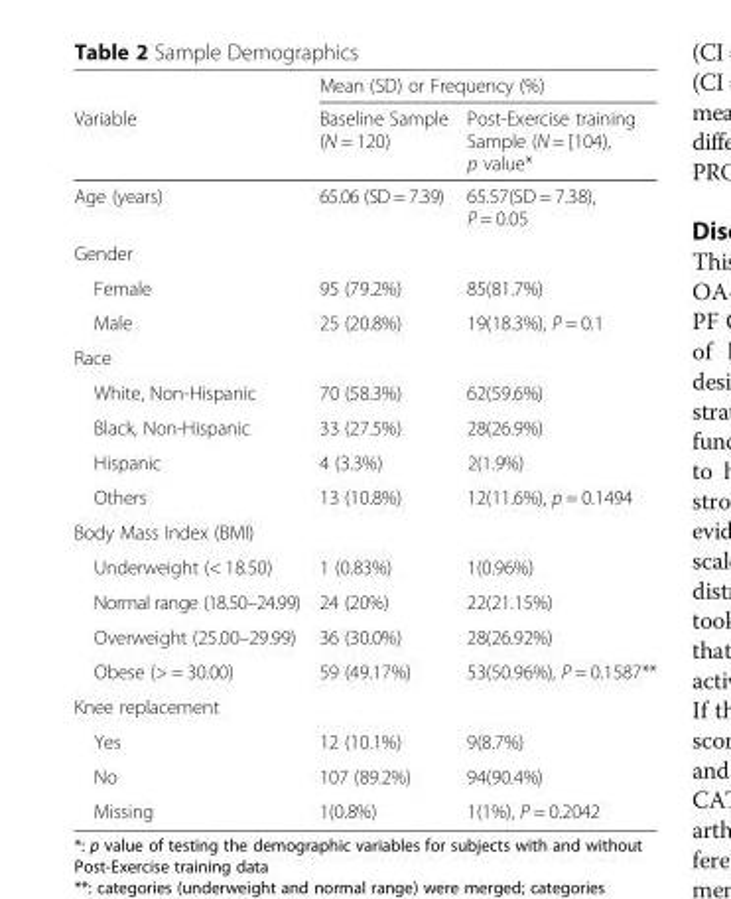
<table><thead><tr><td rowspan="2">Variable</td><td colspan="2">Mean (SD) or Frequency (%)</td></tr><tr><td>Baseline Sample (N = 120)</td><td>Post-Exercise training Sample (N = [104), p value*</td></tr></thead><tbody><tr><td>Age (years)</td><td>65.06 (SD = 7.39)</td><td>65.57(SD = 7.38), P = 0.05</td></tr><tr><td colspan="3">Gender</td></tr><tr><td>Female</td><td>95 (79.2%)</td><td>85(81.7%)</td></tr><tr><td>Male</td><td>25 (20.8%)</td><td>19(18.3%), P = 0.1</td></tr><tr><td colspan="3">Race</td></tr><tr><td>White, Non-Hispanic</td><td>70 (58.3%)</td><td>62(59.6%)</td></tr><tr><td>Black, Non-Hispanic</td><td>33 (27.5%)</td><td>28(26.9%)</td></tr><tr><td>Hispanic</td><td>4 (3.3%)</td><td>2(1.9%)</td></tr><tr><td>Others</td><td>13 (10.8%)</td><td>12(11.6%), p = 0.1494</td></tr><tr><td colspan="3">Body Mass Index (BMI)</td></tr><tr><td>Underweight (&lt; 18.50)</td><td>1 (0.83%)</td><td>1(0.96%)</td></tr><tr><td>Normal range (18.50–24.99)</td><td>24 (20%)</td><td>22(21.15%)</td></tr><tr><td>Overweight (25.00–29.99)</td><td>36 (30.0%)</td><td>28(26.92%)</td></tr><tr><td>Obese (&gt; = 30.00)</td><td>59 (49.17%)</td><td>53(50.96%), P = 0.1587**</td></tr><tr><td colspan="3">Knee replacement</td></tr><tr><td>Yes</td><td>12 (10.1%)</td><td>9(8.7%)</td></tr><tr><td>No</td><td>107 (89.2%)</td><td>94(90.4%)</td></tr><tr><td>Missing</td><td>1(0.8%)</td><td>1(1%), P = 0.2042</td></tr></tbody></table>